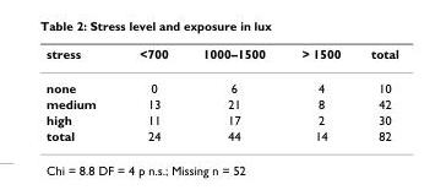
<table><thead><tr><td>stress</td><td>&lt;700</td><td>1000–1500</td><td>&gt; 1500</td><td>total</td></tr></thead><tbody><tr><td>none</td><td>0</td><td>6</td><td>4</td><td>10</td></tr><tr><td>medium</td><td>13</td><td>21</td><td>8</td><td>42</td></tr><tr><td>high</td><td>11</td><td>17</td><td>2</td><td>30</td></tr><tr><td>total</td><td>24</td><td>44</td><td>14</td><td>82</td></tr></tbody></table>